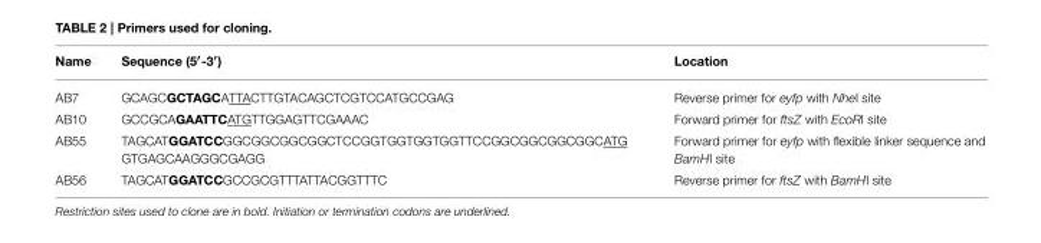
<table><thead><tr><td>Name</td><td>Sequence (5′-3′)</td><td>Location</td></tr></thead><tbody><tr><td>AB7</td><td>GCAGCGCTAGCATTACTTGTACAGCTCGTCCATGCCGAG</td><td>Reverse primer for eyfp with NheI site</td></tr><tr><td>AB10</td><td>GCCGCAGAATTCATGTTGGAGTTCGAAAC</td><td>Forward primer for ftsZ with EcoRI site</td></tr><tr><td>AB55</td><td>TAGCATGGATCCGGCGGCGGCGGCTCCGGTGGTGGTGGTTCCGGCGGCGGCGGCATG GTGAGCAAGGGCGAGG</td><td>Forward primer for eyfp with flexible linker sequence and BamHI site</td></tr><tr><td>AB56</td><td>TAGCATGGATCCGCCGCGTTTATTACGGTTTC</td><td>Reverse primer for ftsZ with BamHI site</td></tr></tbody></table>